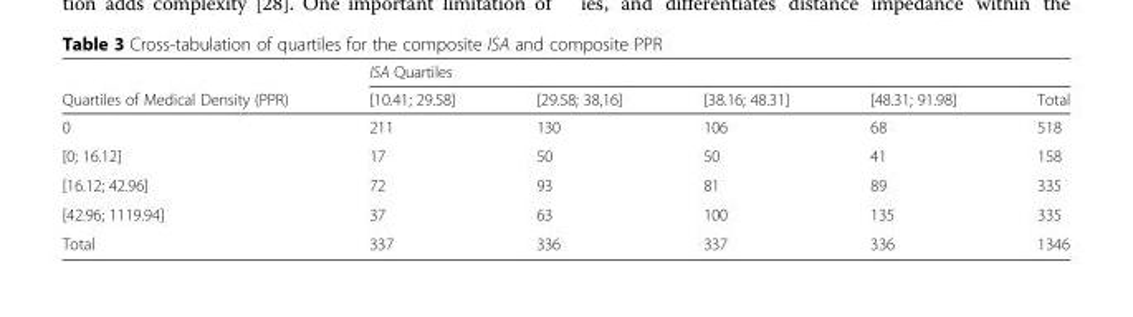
<table><thead><tr><td rowspan="2">Quartiles of Medical Density (PPR)</td><td colspan="5">ISA Quartiles</td></tr><tr><td>[10.41; 29.58]</td><td>[29.58; 38,16]</td><td>[38.16; 48.31]</td><td>[48.31; 91.98]</td><td>Total</td></tr></thead><tbody><tr><td>0</td><td>211</td><td>130</td><td>106</td><td>68</td><td>518</td></tr><tr><td>[0; 16.12]</td><td>17</td><td>50</td><td>50</td><td>41</td><td>158</td></tr><tr><td>[16.12; 42.96]</td><td>72</td><td>93</td><td>81</td><td>89</td><td>335</td></tr><tr><td>[42.96; 1119.94]</td><td>37</td><td>63</td><td>100</td><td>135</td><td>335</td></tr><tr><td>Total</td><td>337</td><td>336</td><td>337</td><td>336</td><td>1346</td></tr></tbody></table>